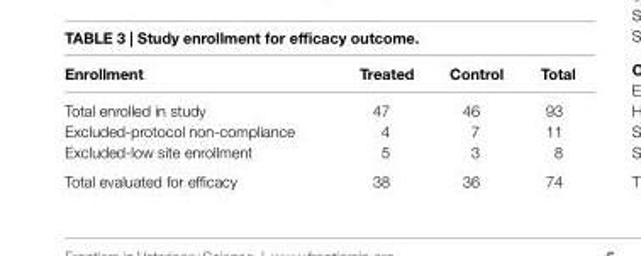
<table><thead><tr><td>enrollment</td><td>Treated</td><td>control</td><td>Total</td></tr></thead><tbody><tr><td>Total enrolled in study</td><td>47</td><td>46</td><td>93</td></tr><tr><td>Excluded-protocol non-compliance</td><td>4</td><td>7</td><td>11</td></tr><tr><td>Excluded-low site enrollment</td><td>5</td><td>3</td><td>8</td></tr><tr><td>Total evaluated for efficacy</td><td>38</td><td>36</td><td>74</td></tr></tbody></table>